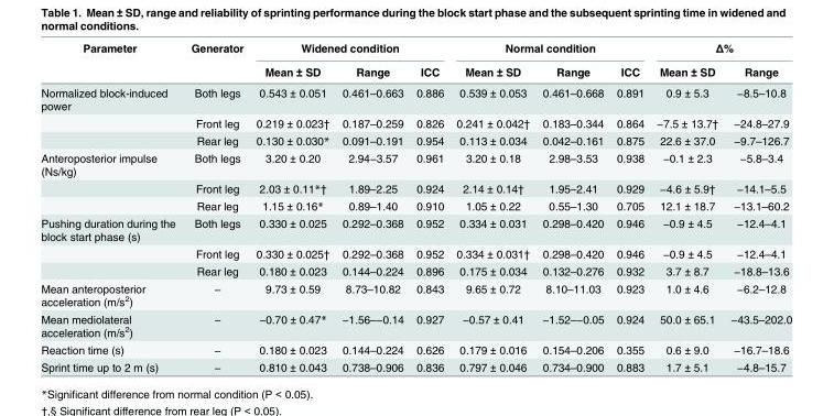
<table><thead><tr><td rowspan="2">Parameter</td><td rowspan="2">Generator</td><td colspan="3">Widened condition</td><td colspan="3">Normal condition</td><td colspan="2">Δ%</td></tr><tr><td>Mean ± SD</td><td>Range</td><td>ICC</td><td>Mean ± SD</td><td>Range</td><td>ICC</td><td>Mean ± SD</td><td>Range</td></tr></thead><tbody><tr><td rowspan="3">Normalized block-induced power</td><td>Both legs</td><td>0.543 ± 0.051</td><td>0.461–0.663</td><td>0.886</td><td>0.539 ± 0.053</td><td>0.461–0.668</td><td>0.891</td><td>0.9 ± 5.3</td><td>−8.5–10.8</td></tr><tr><td>Front leg</td><td>0.219 ± 0.023†</td><td>0.187–0.259</td><td>0.826</td><td>0.241 ± 0.042†</td><td>0.183–0.344</td><td>0.864</td><td>−7.5 ± 13.7†</td><td>−24.8–27.9</td></tr><tr><td>Rear leg</td><td>0.130 ± 0.030*</td><td>0.091–0.191</td><td>0.954</td><td>0.113 ± 0.034</td><td>0.042–0.161</td><td>0.875</td><td>22.6 ± 37.0</td><td>−9.7–126.7</td></tr><tr><td rowspan="3">Anteroposterior impulse (Ns/kg)</td><td>Both legs</td><td>3.20 ± 0.20</td><td>2.94−3.57</td><td>0.961</td><td>3.20 ± 0.18</td><td>2.98–3.53</td><td>0.938</td><td>−0.1 ± 2.3</td><td>−5.8–3.4</td></tr><tr><td>Front leg</td><td>2.03 ± 0.11*†</td><td>1.89–2.25</td><td>0.924</td><td>2.14 ± 0.14†</td><td>1.95–2.41</td><td>0.929</td><td>−4.6 ± 5.9†</td><td>−14.1–5.5</td></tr><tr><td>Rear leg</td><td>1.15 ± 0.16*</td><td>0.89–1.40</td><td>0.910</td><td>1.05 ± 0.22</td><td>0.55–1.30</td><td>0.705</td><td>12.1 ± 18.7</td><td>−13.1–60.2</td></tr><tr><td rowspan="3">Pushing duration during the block start phase (s)</td><td>Both legs</td><td>0.330 ± 0.025</td><td>0.292–0.368</td><td>0.952</td><td>0.334 ± 0.031</td><td>0.298–0.420</td><td>0.946</td><td>−0.9 ± 4.5</td><td>−12.4–4.1</td></tr><tr><td>Front leg</td><td>0.330 ± 0.025†</td><td>0.292–0.368</td><td>0.952</td><td>0.334 ± 0.031†</td><td>0.298–0.420</td><td>0.946</td><td>−0.9 ± 4.5</td><td>−12.4–4.1</td></tr><tr><td>Rear leg</td><td>0.180 ± 0.023</td><td>0.144–0.224</td><td>0.896</td><td>0.175 ± 0.034</td><td>0.132–0.276</td><td>0.932</td><td>3.7 ± 8.7</td><td>−18.8–13.6</td></tr><tr><td>Mean anteroposterior acceleration (m/s<sup>2</sup>)</td><td>―</td><td>9.73 ± 0.59</td><td>8.73–10.82</td><td>0.843</td><td>9.65 ± 0.72</td><td>8.10–11.03</td><td>0.923</td><td>1.0 ± 4.6</td><td>−6.2–12.8</td></tr><tr><td>Mean mediolateral acceleration (m/s<sup>2</sup>)</td><td>―</td><td>−0.70 ± 0.47*</td><td>−1.56–−0.14</td><td>0.927</td><td>−0.57 ± 0.41</td><td>−1.52–−0.05</td><td>0.924</td><td>50.0 ± 65.1</td><td>−43.5–202.0</td></tr><tr><td>Reaction time (s)</td><td>―</td><td>0.180 ± 0.023</td><td>0.144–0.224</td><td>0.626</td><td>0.179 ± 0.016</td><td>0.154–0.206</td><td>0.355</td><td>0.6 ± 9.0</td><td>−16.7–18.6</td></tr><tr><td>Sprint time up to 2 m (s)</td><td>―</td><td>0.810 ± 0.043</td><td>0.738–0.906</td><td>0.836</td><td>0.797 ± 0.046</td><td>0.734–0.900</td><td>0.883</td><td>1.7 ± 5.1</td><td>−4.8–15.7</td></tr></tbody></table>